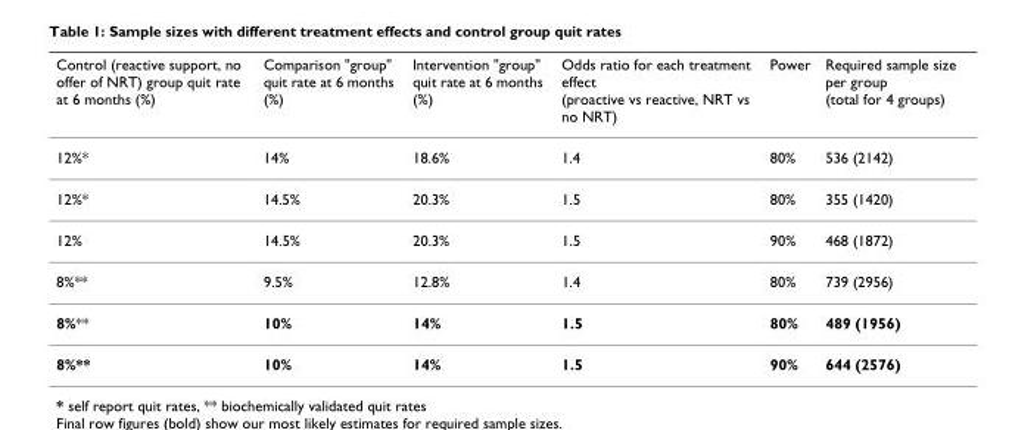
<table><thead><tr><td>Control (reactive support, no offer of NRT) group quit rate at 6 months (%)</td><td>Comparison &quot;group&quot; quit rate at 6 months (%)</td><td>Intervention &quot;group&quot; quit rate at 6 months (%)</td><td>Odds ratio for each treatment effect (proactive vs reactive, NRT vs no NRT)</td><td>Power</td><td>Required sample size per group (total for 4 groups)</td></tr></thead><tbody><tr><td>12%*</td><td>14%</td><td>18.6%</td><td>1.4</td><td>80%</td><td>536 (2142)</td></tr><tr><td>12%*</td><td>14.5%</td><td>20.3%</td><td>1.5</td><td>80%</td><td>355 (1420)</td></tr><tr><td>12%</td><td>14.5%</td><td>20.3%</td><td>1.5</td><td>90%</td><td>468 (1872)</td></tr><tr><td>8%**</td><td>9.5%</td><td>12.8%</td><td>1.4</td><td>80%</td><td>739 (2956)</td></tr><tr><td>8%**</td><td>10%</td><td>14%</td><td>1.5</td><td>80%</td><td>489 (1956)</td></tr><tr><td>8%**</td><td>10%</td><td>14%</td><td>1.5</td><td>90%</td><td>644 (2576)</td></tr></tbody></table>